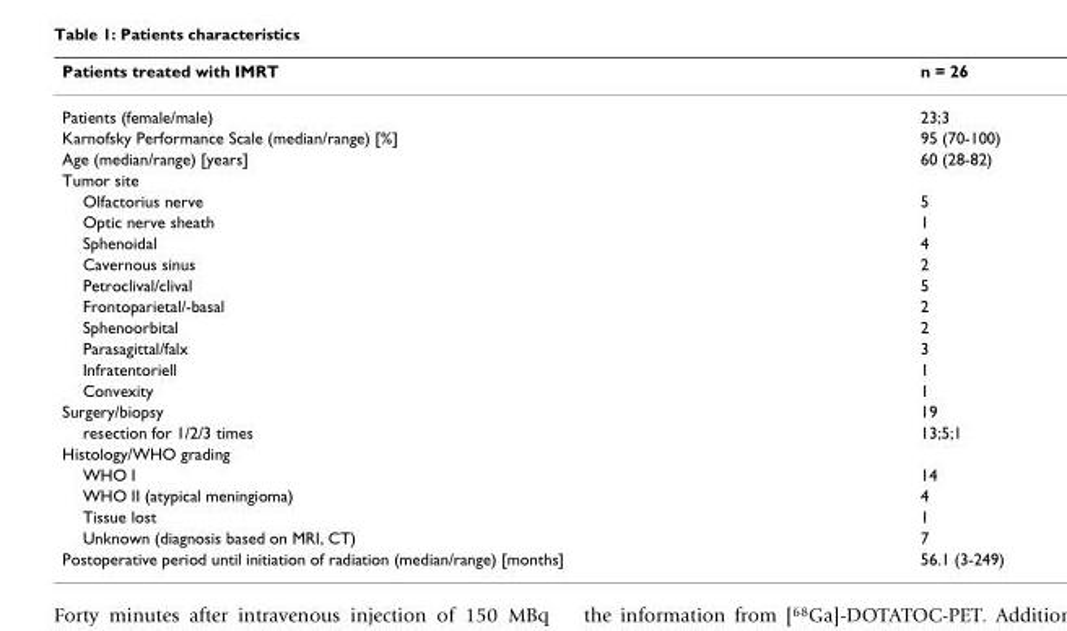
<table><thead><tr><td>Patients treated with IMRT</td><td>n = 26</td></tr></thead><tbody><tr><td>Patients (female/male)</td><td>23;3</td></tr><tr><td>Karnofsky Performance Scale (median/range) [%]</td><td>95 (70-100)</td></tr><tr><td>Age (median/range) [years]</td><td>60 (28-82)</td></tr><tr><td colspan="2">Tumor site</td></tr><tr><td>Olfactorius nerve</td><td>5</td></tr><tr><td>Optic nerve sheath</td><td>1</td></tr><tr><td>Sphenoidal</td><td>4</td></tr><tr><td>Cavernous sinus</td><td>2</td></tr><tr><td>Petroclival/clival</td><td>5</td></tr><tr><td>Frontoparietal/-basal</td><td>2</td></tr><tr><td>Sphenoorbital</td><td>2</td></tr><tr><td>Parasagittal/falx</td><td>3</td></tr><tr><td>Infratentoriell</td><td>1</td></tr><tr><td>Convexity</td><td>1</td></tr><tr><td>Surgery/biopsy</td><td>19</td></tr><tr><td>resection for 1/2/3 times</td><td>13;5;1</td></tr><tr><td colspan="2">Histology/WHO grading</td></tr><tr><td>WHO I</td><td>14</td></tr><tr><td>WHO II (atypical meningioma)</td><td>4</td></tr><tr><td>Tissue lost</td><td>1</td></tr><tr><td>Unknown (diagnosis based on MRI, CT)</td><td>7</td></tr><tr><td>Postoperative period until initiation of radiation (median/range) [months]</td><td>56.1 (3-249)</td></tr></tbody></table>